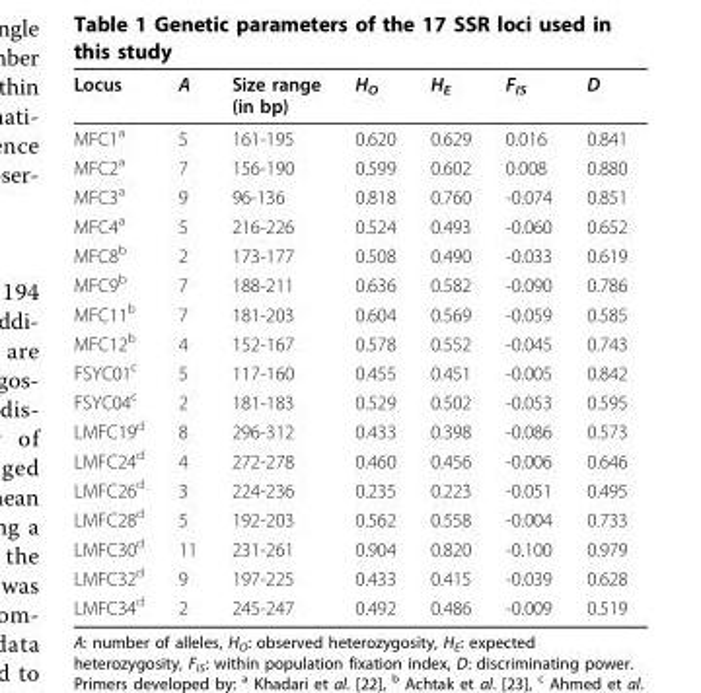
<table><thead><tr><td>Locus</td><td>A</td><td>Size range (in bp)</td><td>H<sub>O</sub></td><td>H<sub>E</sub></td><td>F<sub>IS</sub></td><td>D</td></tr></thead><tbody><tr><td>MFC1<sup>a</sup></td><td>5</td><td>161-195</td><td>0.620</td><td>0.629</td><td>0.016</td><td>0.841</td></tr><tr><td>MFC2<sup>a</sup></td><td>7</td><td>156-190</td><td>0.599</td><td>0.602</td><td>0.008</td><td>0.880</td></tr><tr><td>MFC3<sup>a</sup></td><td>9</td><td>96-136</td><td>0.818</td><td>0.760</td><td>-0.074</td><td>0.851</td></tr><tr><td>MFC4<sup>a</sup></td><td>5</td><td>216-226</td><td>0.524</td><td>0.493</td><td>-0.060</td><td>0.652</td></tr><tr><td>MFC8<sup>b</sup></td><td>2</td><td>173-177</td><td>0.508</td><td>0.490</td><td>-0.033</td><td>0.619</td></tr><tr><td>MFC9<sup>b</sup></td><td>7</td><td>188-211</td><td>0.636</td><td>0.582</td><td>-0.090</td><td>0.786</td></tr><tr><td>MFC11<sup>b</sup></td><td>7</td><td>181-203</td><td>0.604</td><td>0.569</td><td>-0.059</td><td>0.585</td></tr><tr><td>MFC12<sup>b</sup></td><td>4</td><td>152-167</td><td>0.578</td><td>0.552</td><td>-0.045</td><td>0.743</td></tr><tr><td>FSYC01<sup>c</sup></td><td>5</td><td>117-160</td><td>0.455</td><td>0.451</td><td>-0.005</td><td>0.842</td></tr><tr><td>FSYC04<sup>c</sup></td><td>2</td><td>181-183</td><td>0.529</td><td>0.502</td><td>-0.053</td><td>0.595</td></tr><tr><td>LMFC19<sup>d</sup></td><td>8</td><td>296-312</td><td>0.433</td><td>0.398</td><td>-0.086</td><td>0.573</td></tr><tr><td>LMFC24<sup>d</sup></td><td>4</td><td>272-278</td><td>0.460</td><td>0.456</td><td>-0.006</td><td>0.646</td></tr><tr><td>LMFC26<sup>d</sup></td><td>3</td><td>224-236</td><td>0.235</td><td>0.223</td><td>-0.051</td><td>0.495</td></tr><tr><td>LMFC28<sup>d</sup></td><td>5</td><td>192-203</td><td>0.562</td><td>0.558</td><td>-0.004</td><td>0.733</td></tr><tr><td>LMFC30<sup>d</sup></td><td>11</td><td>231-261</td><td>0.904</td><td>0.820</td><td>-0.100</td><td>0.979</td></tr><tr><td>LMFC32<sup>d</sup></td><td>9</td><td>197-225</td><td>0.433</td><td>0.415</td><td>-0.039</td><td>0.628</td></tr><tr><td>LMFC34<sup>d</sup></td><td>2</td><td>245-247</td><td>0.492</td><td>0.486</td><td>-0.009</td><td>0.519</td></tr></tbody></table>